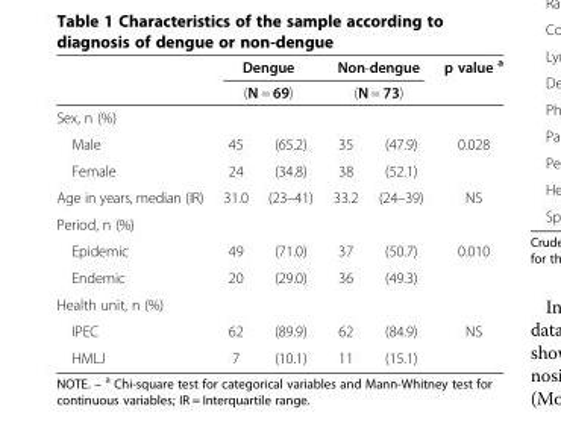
<table><thead><tr><td rowspan="4">Sex, n (%) Male</td><td rowspan="2" colspan="2">Dengue (N = 69)</td><td rowspan="2" colspan="2">Non-dengue (N = 73)</td><td rowspan="2">p value <sup>a</sup></td></tr><tr></tr><tr><td colspan="5"></td></tr><tr><td>45</td><td>(65.2)</td><td>35</td><td>(47.9)</td><td>0.028</td></tr></thead><tbody><tr><td>Female</td><td>24</td><td>(34.8)</td><td>38</td><td>(52.1)</td><td></td></tr><tr><td>Age in years, median (IR)</td><td>31.0</td><td>(23–41)</td><td>33.2</td><td>(24–39)</td><td>NS</td></tr><tr><td colspan="6">Period, n (%)</td></tr><tr><td>Epidemic</td><td>49</td><td>(71.0)</td><td>37</td><td>(50.7)</td><td>0.010</td></tr><tr><td>Endemic</td><td>20</td><td>(29.0)</td><td>36</td><td>(49.3)</td><td></td></tr><tr><td colspan="6">Health unit, n (%)</td></tr><tr><td>IPEC</td><td>62</td><td>(89.9)</td><td>62</td><td>(84.9)</td><td>NS</td></tr><tr><td>HMLJ</td><td>7</td><td>(10.1)</td><td>11</td><td>(15.1)</td><td></td></tr></tbody></table>